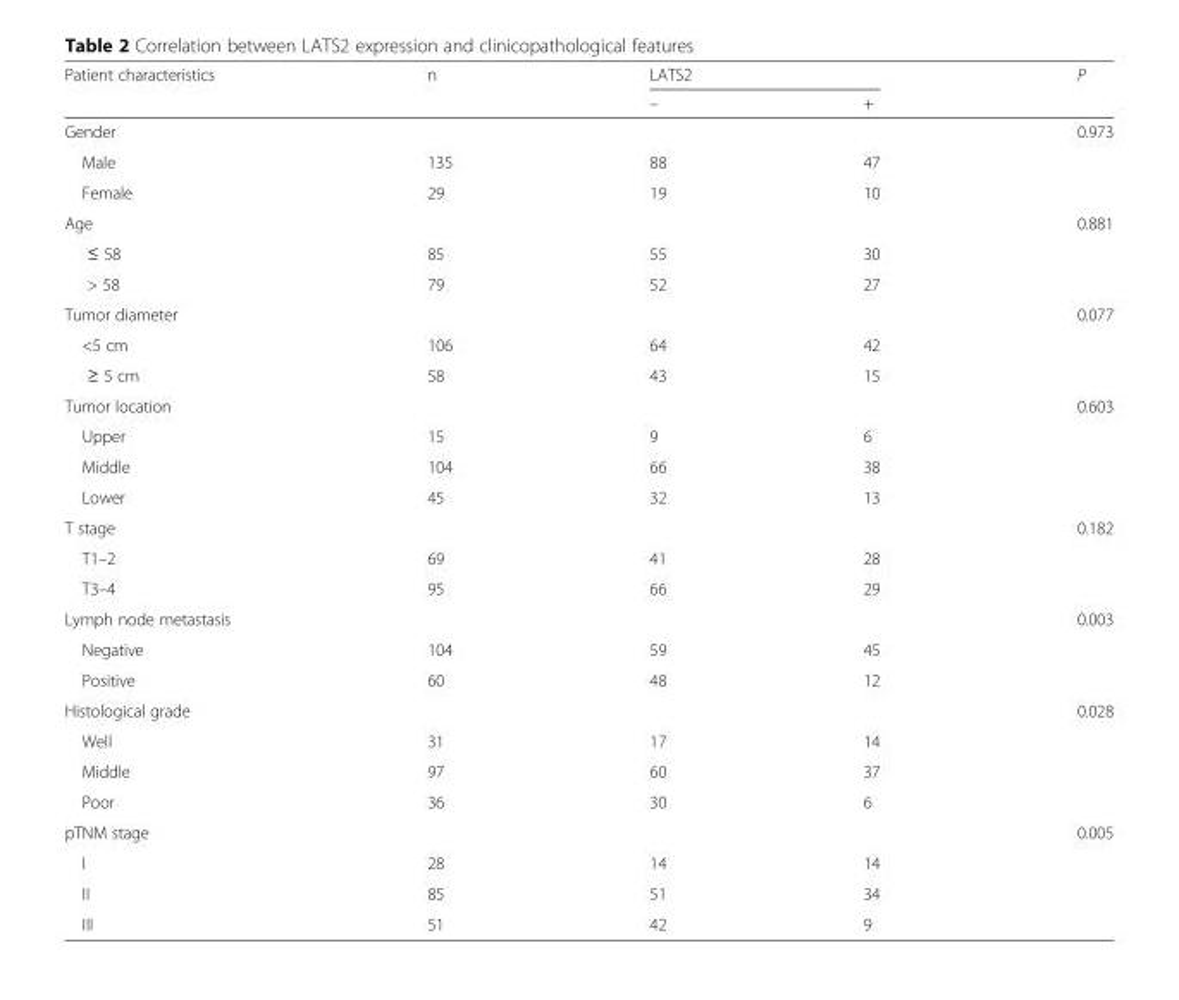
<table><thead><tr><td rowspan="2">Patient characteristics</td><td rowspan="2">n</td><td colspan="2">LATS2</td><td rowspan="2">P</td></tr><tr><td>–</td><td>+</td></tr></thead><tbody><tr><td>Gender</td><td></td><td></td><td></td><td>0.973</td></tr><tr><td>Male</td><td>135</td><td>88</td><td>47</td><td></td></tr><tr><td>Female</td><td>29</td><td>19</td><td>10</td><td></td></tr><tr><td>Age</td><td></td><td></td><td></td><td>0.881</td></tr><tr><td>≤ 58</td><td>85</td><td>55</td><td>30</td><td></td></tr><tr><td>&gt; 58</td><td>79</td><td>52</td><td>27</td><td></td></tr><tr><td>Tumor diameter</td><td></td><td></td><td></td><td>0.077</td></tr><tr><td>&lt;5 cm</td><td>106</td><td>64</td><td>42</td><td></td></tr><tr><td>≥ 5 cm</td><td>58</td><td>43</td><td>15</td><td></td></tr><tr><td>Tumor location</td><td></td><td></td><td></td><td>0.603</td></tr><tr><td>Upper</td><td>15</td><td>9</td><td>6</td><td></td></tr><tr><td>Middle</td><td>104</td><td>66</td><td>38</td><td></td></tr><tr><td>Lower</td><td>45</td><td>32</td><td>13</td><td></td></tr><tr><td>T stage</td><td></td><td></td><td></td><td>0.182</td></tr><tr><td>T1–2</td><td>69</td><td>41</td><td>28</td><td></td></tr><tr><td>T3–4</td><td>95</td><td>66</td><td>29</td><td></td></tr><tr><td>Lymph node metastasis</td><td></td><td></td><td></td><td>0.003</td></tr><tr><td>Negative</td><td>104</td><td>59</td><td>45</td><td></td></tr><tr><td>Positive</td><td>60</td><td>48</td><td>12</td><td></td></tr><tr><td>Histological grade</td><td></td><td></td><td></td><td>0.028</td></tr><tr><td>Well</td><td>31</td><td>17</td><td>14</td><td></td></tr><tr><td>Middle</td><td>97</td><td>60</td><td>37</td><td></td></tr><tr><td>Poor</td><td>36</td><td>30</td><td>6</td><td></td></tr><tr><td>pTNM stage</td><td></td><td></td><td></td><td>0.005</td></tr><tr><td>I</td><td>28</td><td>14</td><td>14</td><td></td></tr><tr><td>II</td><td>85</td><td>51</td><td>34</td><td></td></tr><tr><td>III</td><td>51</td><td>42</td><td>9</td><td></td></tr></tbody></table>